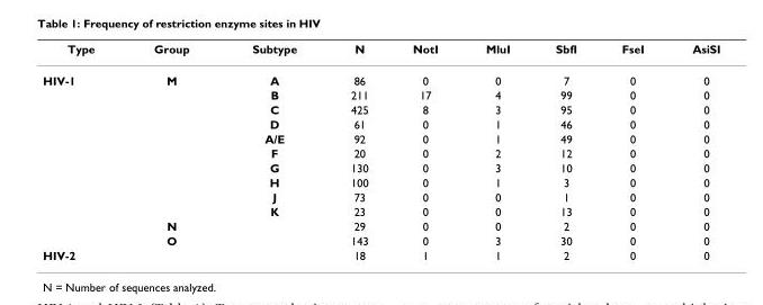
<table><thead><tr><td>Type</td><td>Group</td><td>Subtype</td><td>N</td><td>NotI</td><td>MluI</td><td>SbfI</td><td>FseI</td><td>AsiSI</td></tr></thead><tbody><tr><td rowspan="12">HIV-1</td><td>M</td><td>A</td><td>86</td><td>0</td><td>0</td><td>7</td><td>0</td><td>0</td></tr><tr><td></td><td>B</td><td>211</td><td>17</td><td>4</td><td>99</td><td>0</td><td>0</td></tr><tr><td></td><td>C</td><td>425</td><td>8</td><td>3</td><td>95</td><td>0</td><td>0</td></tr><tr><td></td><td>D</td><td>61</td><td>0</td><td>1</td><td>46</td><td>0</td><td>0</td></tr><tr><td></td><td>A/E</td><td>92</td><td>0</td><td>1</td><td>49</td><td>0</td><td>0</td></tr><tr><td></td><td>F</td><td>20</td><td>0</td><td>2</td><td>12</td><td>0</td><td>0</td></tr><tr><td></td><td>G</td><td>130</td><td>0</td><td>3</td><td>10</td><td>0</td><td>0</td></tr><tr><td></td><td>H</td><td>100</td><td>0</td><td>1</td><td>3</td><td>0</td><td>0</td></tr><tr><td></td><td>J</td><td>73</td><td>0</td><td>0</td><td>1</td><td>0</td><td>0</td></tr><tr><td></td><td>K</td><td>23</td><td>0</td><td>0</td><td>13</td><td>0</td><td>0</td></tr><tr><td>N</td><td></td><td>29</td><td>0</td><td>0</td><td>2</td><td>0</td><td>0</td></tr><tr><td>O</td><td></td><td>143</td><td>0</td><td>3</td><td>30</td><td>0</td><td>0</td></tr><tr><td>HIV-2</td><td></td><td></td><td>18</td><td>1</td><td>1</td><td>2</td><td>0</td><td>0</td></tr></tbody></table>